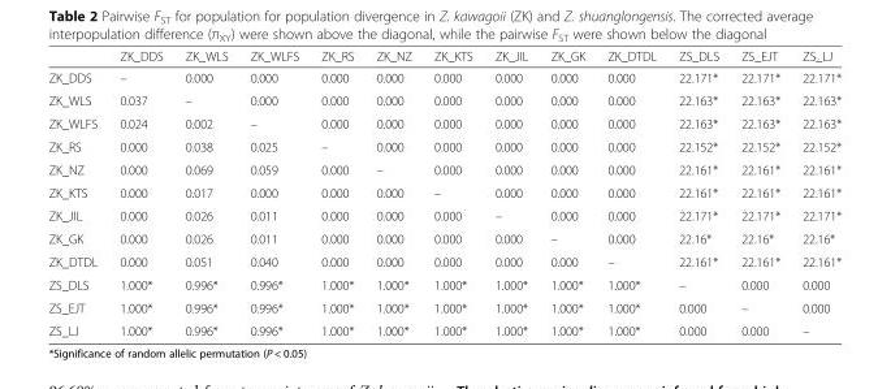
<table><thead><tr><td></td><td>ZK_DDS</td><td>ZK_WLS</td><td>ZK_WLFS</td><td>ZK_RS</td><td>ZK_NZ</td><td>ZK_KTS</td><td>ZK_JIL</td><td>ZK_GK</td><td>ZK_DTDL</td><td>ZS_DLS</td><td>ZS_EJT</td><td>ZS_LJ</td></tr></thead><tbody><tr><td>ZK_DDS</td><td>–</td><td>0.000</td><td>0.000</td><td>0.000</td><td>0.000</td><td>0.000</td><td>0.000</td><td>0.000</td><td>0.000</td><td>22.171*</td><td>22.171*</td><td>22.171*</td></tr><tr><td>ZK_WLS</td><td>0.037</td><td>–</td><td>0.000</td><td>0.000</td><td>0.000</td><td>0.000</td><td>0.000</td><td>0.000</td><td>0.000</td><td>22.163*</td><td>22.163*</td><td>22.163*</td></tr><tr><td>ZK_WLFS</td><td>0.024</td><td>0.002</td><td>–</td><td>0.000</td><td>0.000</td><td>0.000</td><td>0.000</td><td>0.000</td><td>0.000</td><td>22.163*</td><td>22.163*</td><td>22.163*</td></tr><tr><td>ZK_RS</td><td>0.000</td><td>0.038</td><td>0.025</td><td>–</td><td>0.000</td><td>0.000</td><td>0.000</td><td>0.000</td><td>0.000</td><td>22.152*</td><td>22.152*</td><td>22.152*</td></tr><tr><td>ZK_NZ</td><td>0.000</td><td>0.069</td><td>0.059</td><td>0.000</td><td>–</td><td>0.000</td><td>0.000</td><td>0.000</td><td>0.000</td><td>22.161*</td><td>22.161*</td><td>22.161*</td></tr><tr><td>ZK_KTS</td><td>0.000</td><td>0.017</td><td>0.000</td><td>0.000</td><td>0.000</td><td>–</td><td>0.000</td><td>0.000</td><td>0.000</td><td>22.161*</td><td>22.161*</td><td>22.161*</td></tr><tr><td>ZK_JIL</td><td>0.000</td><td>0.026</td><td>0.011</td><td>0.000</td><td>0.000</td><td>0.000</td><td>–</td><td>0.000</td><td>0.000</td><td>22.171*</td><td>22.171*</td><td>22.171*</td></tr><tr><td>ZK_GK</td><td>0.000</td><td>0.026</td><td>0.011</td><td>0.000</td><td>0.000</td><td>0.000</td><td>0.000</td><td>–</td><td>0.000</td><td>22.16*</td><td>22.16*</td><td>22.16*</td></tr><tr><td>ZK_DTDL</td><td>0.000</td><td>0.051</td><td>0.040</td><td>0.000</td><td>0.000</td><td>0.000</td><td>0.000</td><td>0.000</td><td>–</td><td>22.161*</td><td>22.161*</td><td>22.161*</td></tr><tr><td>ZS_DLS</td><td>1.000*</td><td>0.996*</td><td>0.996*</td><td>1.000*</td><td>1.000*</td><td>1.000*</td><td>1.000*</td><td>1.000*</td><td>1.000*</td><td>–</td><td>0.000</td><td>0.000</td></tr><tr><td>ZS_EJT</td><td>1.000*</td><td>0.996*</td><td>0.996*</td><td>1.000*</td><td>1.000*</td><td>1.000*</td><td>1.000*</td><td>1.000*</td><td>1.000*</td><td>0.000</td><td>–</td><td>0.000</td></tr><tr><td>ZS_LJ</td><td>1.000*</td><td>0.996*</td><td>0.996*</td><td>1.000*</td><td>1.000*</td><td>1.000*</td><td>1.000*</td><td>1.000*</td><td>1.000*</td><td>0.000</td><td>0.000</td><td>–</td></tr></tbody></table>